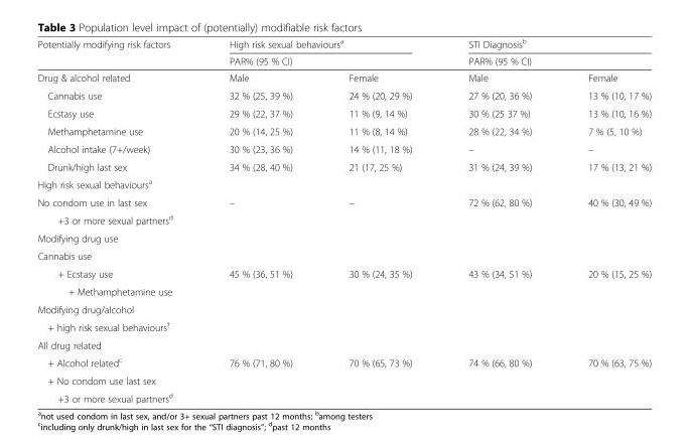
<table><thead><tr><td rowspan="3">Potentially modifying risk factors Drug &amp; alcohol related</td><td rowspan="2" colspan="2">High risk sexual behavioursa PAR% (95 % CI)</td><td rowspan="2" colspan="2">STI Diagnosis<sup>b</sup> PAR% (95 % CI)</td></tr><tr></tr><tr><td>Male</td><td>Female</td><td>Male</td><td>Female</td></tr></thead><tbody><tr><td>Cannabis use</td><td>32 % (25, 39 %)</td><td>24 % (20, 29 %)</td><td>27 % (20, 36 %)</td><td>13 % (10, 17 %)</td></tr><tr><td>Ecstasy use</td><td>29 % (22, 37 %)</td><td>11 % (9, 14 %)</td><td>30 % (25 37 %)</td><td>13 % (10, 16 %)</td></tr><tr><td>Methamphetamine use</td><td>20 % (14, 25 %)</td><td>11 % (8, 14 %)</td><td>28 % (22, 34 %)</td><td>7 % (5, 10 %)</td></tr><tr><td>Alcohol intake (7+/week)</td><td>30 % (23, 36 %)</td><td>14 % (11, 18 %)</td><td>–</td><td>–</td></tr><tr><td>Drunk/high last sex</td><td>34 % (28, 40 %)</td><td>21 (17, 25 %)</td><td>31 % (24, 39 %)</td><td>17 % (13, 21 %)</td></tr><tr><td colspan="5">High risk sexual behaviours<sup>a</sup></td></tr><tr><td>No condom use in last sex</td><td>–</td><td>–</td><td>72 % (62, 80 %)</td><td>40 % (30, 49 %)</td></tr><tr><td colspan="5">+3 or more sexual partners<sup>d</sup></td></tr><tr><td colspan="5">Modifying drug use</td></tr><tr><td colspan="5">Cannabis use</td></tr><tr><td>+ Ecstasy use</td><td>45 % (36, 51 %)</td><td>30 % (24, 35 %)</td><td>43 % (34, 51 %)</td><td>20 % (15, 25 %)</td></tr><tr><td colspan="5">+ Methamphetamine use</td></tr><tr><td colspan="5">Modifying drug/alcohol</td></tr><tr><td colspan="5">+ high risk sexual behaviours<sup>†</sup></td></tr><tr><td colspan="5">All drug related</td></tr><tr><td>+ Alcohol related<sup>c</sup></td><td>76 % (71, 80 %)</td><td>70 % (65, 73 %)</td><td>74 % (66, 80 %)</td><td>70 % (63, 75 %)</td></tr><tr><td colspan="5">+ No condom use last sex</td></tr><tr><td>+3 or more sexual partners<sup>d</sup></td><td></td><td></td><td></td><td></td></tr></tbody></table>